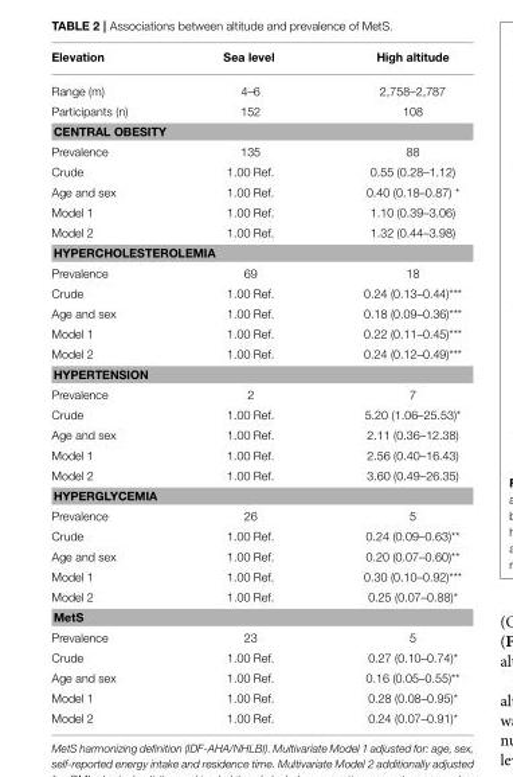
<table><thead><tr><td>Elevation</td><td>Sea level</td><td>High altitude</td></tr></thead><tbody><tr><td>Range (m)</td><td>4–6</td><td>2,758–2,787</td></tr><tr><td>Participants (n)</td><td>152</td><td>108</td></tr><tr><td colspan="3">CENTRAL OBESITY</td></tr><tr><td>Prevalence</td><td>135</td><td>88</td></tr><tr><td>Crude</td><td>1.00 Ref.</td><td>0.55 (0.28–1.12)</td></tr><tr><td>Age and sex</td><td>1.00 Ref.</td><td>0.40 (0.18–0.87) *</td></tr><tr><td>Model 1</td><td>1.00 Ref.</td><td>1.10 (0.39–3.06)</td></tr><tr><td>Model 2</td><td>1.00 Ref.</td><td>1.32 (0.44–3.98)</td></tr><tr><td colspan="3">HYPERCHOLESTEROLEMIA</td></tr><tr><td>Prevalence</td><td>69</td><td>18</td></tr><tr><td>Crude</td><td>1.00 Ref.</td><td>0.24 (0.13–0.44)***</td></tr><tr><td>Age and sex</td><td>1.00 Ref.</td><td>0.18 (0.09–0.36)***</td></tr><tr><td>Model 1</td><td>1.00 Ref.</td><td>0.22 (0.11–0.45)***</td></tr><tr><td>Model 2</td><td>1.00 Ref.</td><td>0.24 (0.12–0.49)***</td></tr><tr><td colspan="3">HYPERTENSION</td></tr><tr><td>Prevalence</td><td>2</td><td>7</td></tr><tr><td>Crude</td><td>1.00 Ref.</td><td>5.20 (1.06–25.53)*</td></tr><tr><td>Age and sex</td><td>1.00 Ref.</td><td>2.11 (0.36–12.38)</td></tr><tr><td>Model 1</td><td>1.00 Ref.</td><td>2.56 (0.40–16.43)</td></tr><tr><td>Model 2</td><td>1.00 Ref.</td><td>3.60 (0.49–26.35)</td></tr><tr><td colspan="3">HYPERGLYCEMIA</td></tr><tr><td>Prevalence</td><td>26</td><td>5</td></tr><tr><td>Crude</td><td>1.00 Ref.</td><td>0.24 (0.09–0.63)**</td></tr><tr><td>Age and sex</td><td>1.00 Ref.</td><td>0.20 (0.07–0.60)**</td></tr><tr><td>Model 1</td><td>1.00 Ref.</td><td>0.30 (0.10–0.92)***</td></tr><tr><td>Model 2</td><td>1.00 Ref.</td><td>0.25 (0.07–0.88)*</td></tr><tr><td colspan="3">MetS</td></tr><tr><td>Prevalence</td><td>23</td><td>5</td></tr><tr><td>Crude</td><td>1.00 Ref.</td><td>0.27 (0.10–0.74)*</td></tr><tr><td>Age and sex</td><td>1.00 Ref.</td><td>0.16 (0.05–0.55)**</td></tr><tr><td>Model 1</td><td>1.00 Ref.</td><td>0.28 (0.08–0.95)*</td></tr><tr><td>Model 2</td><td>1.00 Ref.</td><td>0.24 (0.07–0.91)*</td></tr></tbody></table>